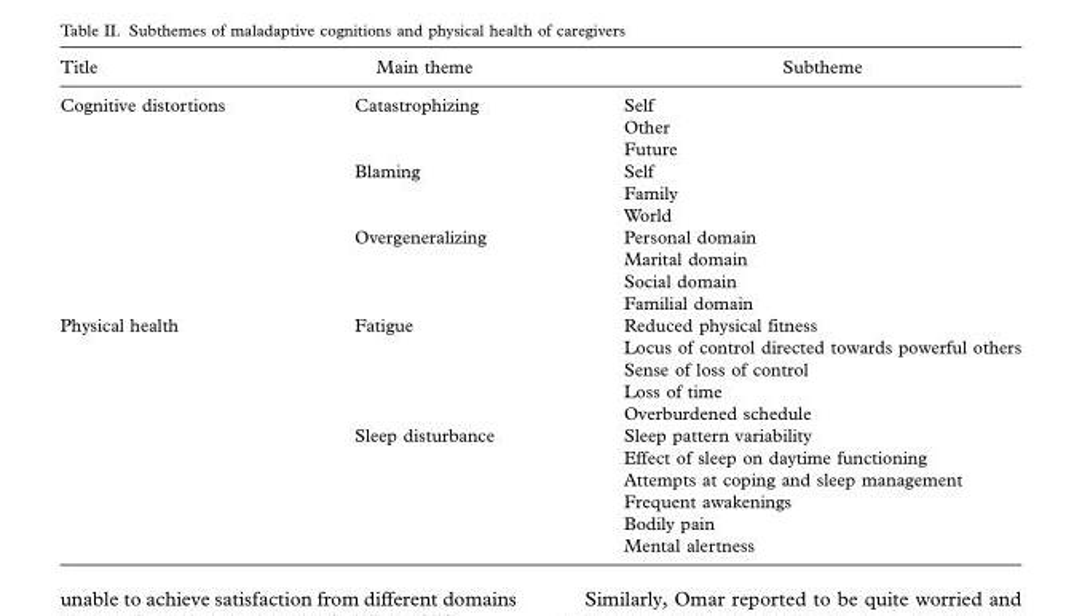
<table><thead><tr><td>Title</td><td>Main theme</td><td>Subtheme</td></tr></thead><tbody><tr><td rowspan="10">Cognitive distortions</td><td>Catastrophizing</td><td>Self</td></tr><tr><td></td><td>Other</td></tr><tr><td></td><td>Future</td></tr><tr><td>Blaming</td><td>Self</td></tr><tr><td></td><td>Family</td></tr><tr><td></td><td>World</td></tr><tr><td>Overgeneralizing</td><td>Personal domain</td></tr><tr><td></td><td>Marital domain</td></tr><tr><td></td><td>Social domain</td></tr><tr><td></td><td>Familial domain</td></tr><tr><td rowspan="11">Physical health</td><td>Fatigue</td><td>Reduced physical fitness</td></tr><tr><td></td><td>Locus of control directed towards powerful others</td></tr><tr><td></td><td>Sense of loss of control</td></tr><tr><td></td><td>Loss of time</td></tr><tr><td></td><td>Overburdened schedule</td></tr><tr><td>Sleep disturbance</td><td>Sleep pattern variability</td></tr><tr><td></td><td>Effect of sleep on daytime functioning</td></tr><tr><td></td><td>Attempts at coping and sleep management</td></tr><tr><td></td><td>Frequent awakenings</td></tr><tr><td></td><td>Bodily pain</td></tr><tr><td></td><td>Mental alertness</td></tr></tbody></table>